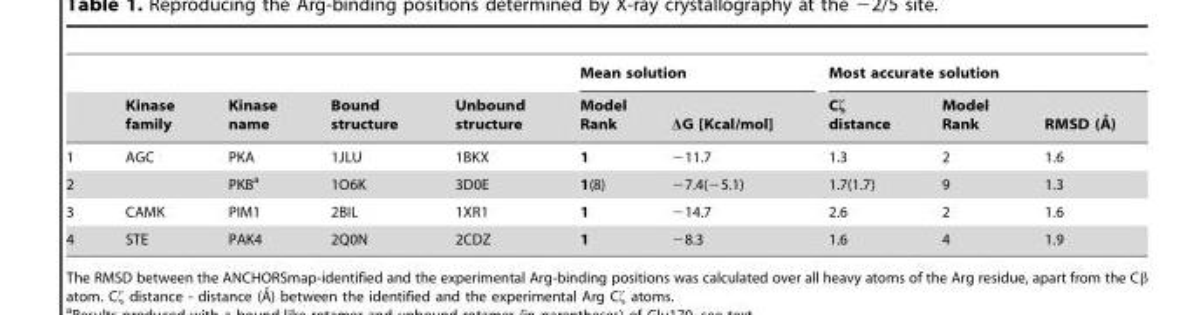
<table><thead><tr><td rowspan="2"></td><td rowspan="2">Kinase family</td><td rowspan="2">Kinase name</td><td rowspan="2">Bound structure</td><td rowspan="2">Unbound structure</td><td colspan="2">Mean solution</td><td colspan="3">Most accurate solution</td></tr><tr><td>Model Rank</td><td>ΔG [Kcal/mol]</td><td>Cζ distance</td><td>Model Rank</td><td>RMSD (A˚ )</td></tr></thead><tbody><tr><td>1</td><td>AGC</td><td>PKA</td><td>1JLU</td><td>1BKX</td><td>1</td><td>−11.7</td><td>1.3</td><td>2</td><td>1.6</td></tr><tr><td>2</td><td></td><td>PKB<sup>a</sup></td><td>1O6K</td><td>3D0E</td><td>1(8)</td><td>−7.4(−5.1)</td><td>1.7(1.7)</td><td>9</td><td>1.3</td></tr><tr><td>3</td><td>CAMK</td><td>PIM1</td><td>2BIL</td><td>1XR1</td><td>1</td><td>−14.7</td><td>2.6</td><td>2</td><td>1.6</td></tr><tr><td>4</td><td>STE</td><td>PAK4</td><td>2Q0N</td><td>2CDZ</td><td>1</td><td>−8.3</td><td>1.6</td><td>4</td><td>1.9</td></tr></tbody></table>